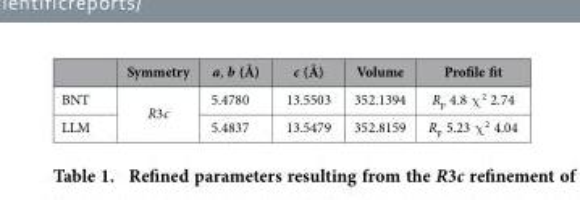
<table><thead><tr><td></td><td>Symmetry</td><td>a, b (Å)</td><td>c (Å)</td><td>Volume</td><td>Profile fit</td></tr></thead><tbody><tr><td>BNT</td><td rowspan="2">R3c</td><td>5.4780</td><td>13.5503</td><td>352.1394</td><td>R<sub>p</sub> 4.8 χ <sup>2</sup> 2.74</td></tr><tr><td>LLM</td><td>5.4837</td><td>13.5479</td><td>352.8159</td><td>R<sub>p</sub> 5.23 χ <sup>2</sup> 4.04</td></tr></tbody></table>